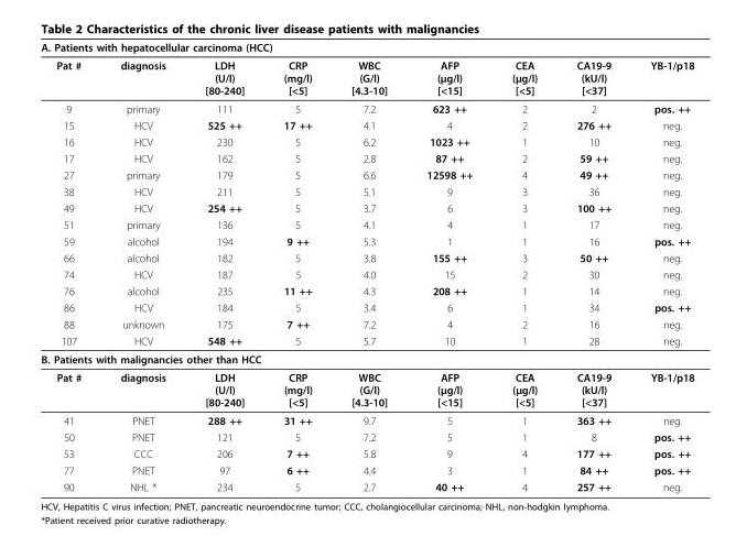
<table><thead><tr><td colspan="9">A. Patients with hepatocellular carcinoma (HCC)</td></tr><tr><td>Pat #</td><td>diagnosis</td><td>LDH (U/l) [80-240]</td><td>CRP (mg/l) [&lt;5]</td><td>WBC (G/l) [4.3-10]</td><td>AFP (μg/l) [&lt;15]</td><td>CEA (μg/l) [&lt;5]</td><td>CA19-9 (kU/l) [&lt;37]</td><td>YB-1/p18</td></tr></thead><tbody><tr><td>9</td><td>primary</td><td>111</td><td>5</td><td>7.2</td><td>623 ++</td><td>2</td><td>2</td><td>pos. ++</td></tr><tr><td>15</td><td>HCV</td><td>525 ++</td><td>17 ++</td><td>4.1</td><td>4</td><td>2</td><td>276 ++</td><td>neg.</td></tr><tr><td>16</td><td>HCV</td><td>230</td><td>5</td><td>6.2</td><td>1023 ++</td><td>1</td><td>10</td><td>neg.</td></tr><tr><td>17</td><td>HCV</td><td>162</td><td>5</td><td>2.8</td><td>87 ++</td><td>2</td><td>59 ++</td><td>neg.</td></tr><tr><td>27</td><td>primary</td><td>179</td><td>5</td><td>6.6</td><td>12598 ++</td><td>4</td><td>49 ++</td><td>neg.</td></tr><tr><td>38</td><td>HCV</td><td>211</td><td>5</td><td>5.1</td><td>9</td><td>3</td><td>36</td><td>neg.</td></tr><tr><td>49</td><td>HCV</td><td>254 ++</td><td>5</td><td>3.7</td><td>6</td><td>3</td><td>100 ++</td><td>neg.</td></tr><tr><td>51</td><td>primary</td><td>136</td><td>5</td><td>4.1</td><td>4</td><td>1</td><td>17</td><td>neg.</td></tr><tr><td>59</td><td>alcohol</td><td>194</td><td>9 ++</td><td>5.3</td><td>1</td><td>1</td><td>16</td><td>pos. ++</td></tr><tr><td>66</td><td>alcohol</td><td>182</td><td>5</td><td>3.8</td><td>155 ++</td><td>3</td><td>50 ++</td><td>neg.</td></tr><tr><td>74</td><td>HCV</td><td>187</td><td>5</td><td>4.0</td><td>15</td><td>2</td><td>30</td><td>neg.</td></tr><tr><td>76</td><td>alcohol</td><td>235</td><td>11 ++</td><td>4.3</td><td>208 ++</td><td>1</td><td>14</td><td>neg.</td></tr><tr><td>86</td><td>HCV</td><td>184</td><td>5</td><td>3.4</td><td>6</td><td>1</td><td>34</td><td>pos. ++</td></tr><tr><td>88</td><td>unknown</td><td>175</td><td>7 ++</td><td>7.2</td><td>4</td><td>2</td><td>16</td><td>neg.</td></tr><tr><td>107</td><td>HCV</td><td>548 ++</td><td>5</td><td>5.7</td><td>10</td><td>1</td><td>28</td><td>neg.</td></tr><tr><td colspan="9">B. Patients with malignancies other than HCC</td></tr><tr><td>Pat #</td><td>diagnosis</td><td>LDH (U/l) [80-240]</td><td>CRP (mg/l) [&lt;5]</td><td>WBC (G/l) [4.3-10]</td><td>AFP (μg/l) [&lt;15]</td><td>CEA (μg/l) [&lt;5]</td><td>CA19-9 (kU/l) [&lt;37]</td><td>YB-1/p18</td></tr><tr><td>41</td><td>PNET</td><td>288 ++</td><td>31 ++</td><td>9.7</td><td>5</td><td>1</td><td>363 ++</td><td>neg.</td></tr><tr><td>50</td><td>PNET</td><td>121</td><td>5</td><td>7.2</td><td>5</td><td>1</td><td>8</td><td>pos. ++</td></tr><tr><td>53</td><td>CCC</td><td>206</td><td>7 ++</td><td>5.8</td><td>9</td><td>4</td><td>177 ++</td><td>pos. ++</td></tr><tr><td>77</td><td>PNET</td><td>97</td><td>6 ++</td><td>4.4</td><td>3</td><td>1</td><td>84 ++</td><td>pos. ++</td></tr><tr><td>90</td><td>NHL *</td><td>234</td><td>5</td><td>2.7</td><td>40 ++</td><td>4</td><td>257 ++</td><td>neg.</td></tr></tbody></table>